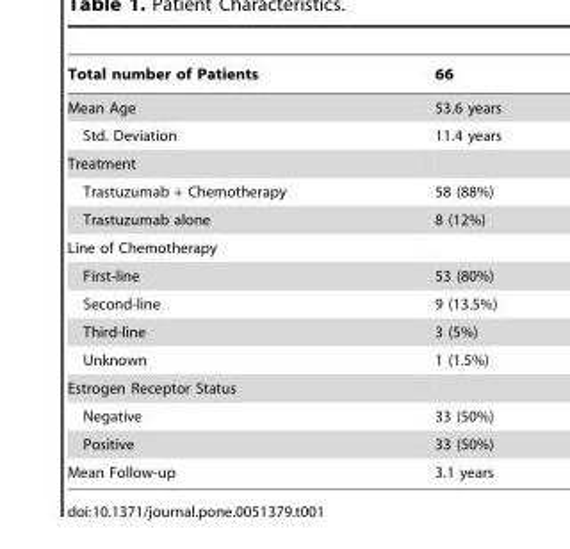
<table><thead><tr><td>Total number of Patients</td><td>66</td></tr></thead><tbody><tr><td>Mean Age</td><td>53.6 years</td></tr><tr><td>Std. Deviation</td><td>11.4 years</td></tr><tr><td colspan="2">Treatment</td></tr><tr><td>Trastuzumab + Chemotherapy</td><td>58 (88%)</td></tr><tr><td>Trastuzumab alone</td><td>8 (12%)</td></tr><tr><td colspan="2">Line of Chemotherapy</td></tr><tr><td>First-line</td><td>53 (80%)</td></tr><tr><td>Second-line</td><td>9 (13.5%)</td></tr><tr><td>Third-line</td><td>3 (5%)</td></tr><tr><td>Unknown</td><td>1 (1.5%)</td></tr><tr><td colspan="2">Estrogen Receptor Status</td></tr><tr><td>Negative</td><td>33 (50%)</td></tr><tr><td>Positive</td><td>33 (50%)</td></tr><tr><td>Mean Follow-up</td><td>3.1 years</td></tr></tbody></table>